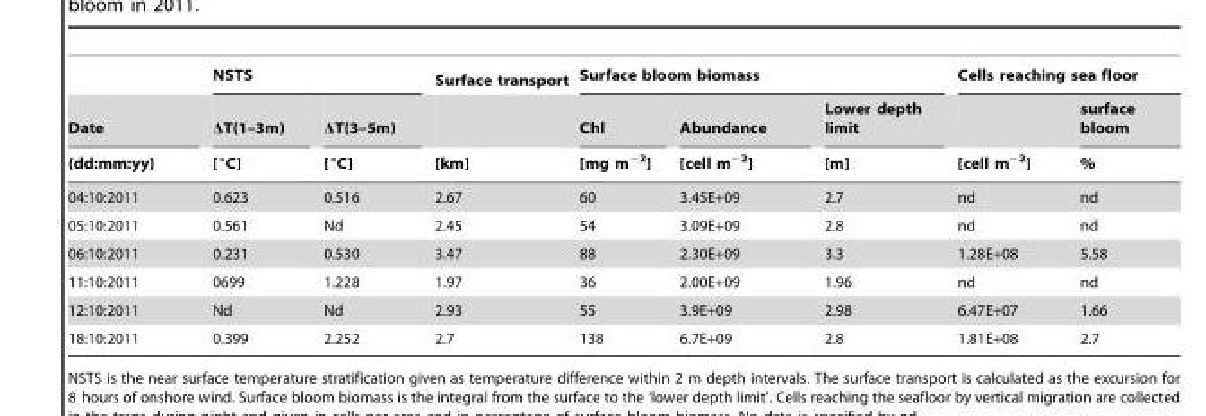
<table><thead><tr><td rowspan="3">Date (dd:mm:yy)</td><td colspan="2">NSTS</td><td rowspan="3">Surface transport [km]</td><td colspan="3">Surface bloom biomass</td><td colspan="2">Cells reaching sea floor</td></tr><tr><td rowspan="2">ΔT(1–3m) [°C]</td><td rowspan="2">ΔT(3–5m) [°C]</td><td rowspan="2">Chl [mg m<sup>−2</sup>]</td><td rowspan="2">Abundance [cell m<sup>−2</sup>]</td><td rowspan="2">Lower depth limit [m]</td><td rowspan="2">[cell m<sup>−2</sup>]</td><td rowspan="2">surface bloom %</td></tr><tr></tr></thead><tbody><tr><td>04:10:2011</td><td>0.623</td><td>0.516</td><td>2.67</td><td>60</td><td>3.45E+09</td><td>2.7</td><td>nd</td><td>nd</td></tr><tr><td>05:10:2011</td><td>0.561</td><td>Nd</td><td>2.45</td><td>54</td><td>3.09E+09</td><td>2.8</td><td>nd</td><td>nd</td></tr><tr><td>06:10:2011</td><td>0.231</td><td>0.530</td><td>3.47</td><td>88</td><td>2.30E+09</td><td>3.3</td><td>1.28E+08</td><td>5.58</td></tr><tr><td>11:10:2011</td><td>0699</td><td>1.228</td><td>1.97</td><td>36</td><td>2.00E+09</td><td>1.96</td><td>nd</td><td>nd</td></tr><tr><td>12:10:2011</td><td>Nd</td><td>Nd</td><td>2.93</td><td>55</td><td>3.9E+09</td><td>2.98</td><td>6.47E+07</td><td>1.66</td></tr><tr><td>18:10:2011</td><td>0.399</td><td>2.252</td><td>2.7</td><td>138</td><td>6.7E+09</td><td>2.8</td><td>1.81E+08</td><td>2.7</td></tr></tbody></table>